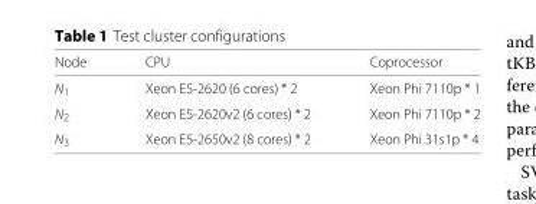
<table><thead><tr><td>Node</td><td>CPU</td><td>Coprocessor</td></tr></thead><tbody><tr><td>N<sub>1</sub></td><td>Xeon E5-2620 (6 cores) * 2</td><td>Xeon Phi 7110p * 1</td></tr><tr><td>N<sub>2</sub></td><td>Xeon E5-2620v2 (6 cores) * 2</td><td>Xeon Phi 7110p * 2</td></tr><tr><td>N<sub>3</sub></td><td>Xeon E5-2650v2 (8 cores) * 2</td><td>Xeon Phi 31s1p * 4</td></tr></tbody></table>